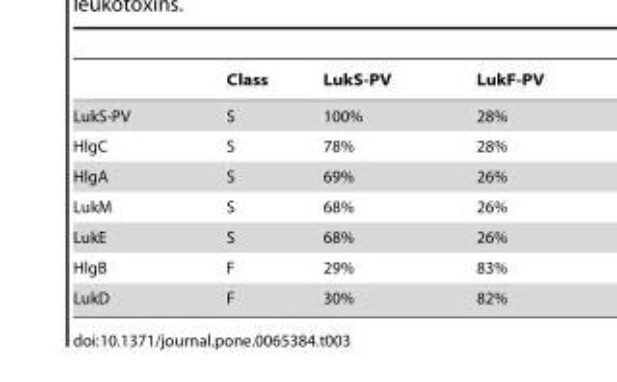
<table><thead><tr><td></td><td>Class</td><td>LukS-PV</td><td>LukF-PV</td></tr></thead><tbody><tr><td>LukS-PV</td><td>S</td><td>100%</td><td>28%</td></tr><tr><td>HlgC</td><td>S</td><td>78%</td><td>28%</td></tr><tr><td>HlgA</td><td>S</td><td>69%</td><td>26%</td></tr><tr><td>LukM</td><td>S</td><td>68%</td><td>26%</td></tr><tr><td>LukE</td><td>S</td><td>68%</td><td>26%</td></tr><tr><td>HlgB</td><td>F</td><td>29%</td><td>83%</td></tr><tr><td>LukD</td><td>F</td><td>30%</td><td>82%</td></tr></tbody></table>